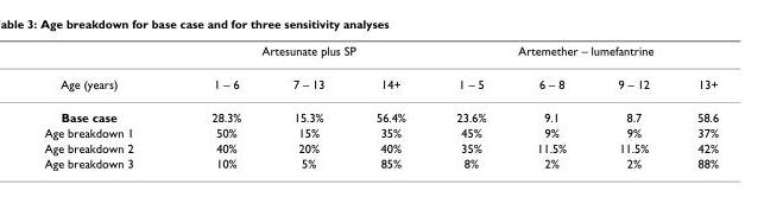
<table><thead><tr><td rowspan="2">Age (years)</td><td colspan="3">Artesunate plus SP</td><td colspan="4">Artemether – lumefantrine</td></tr><tr><td>1 – 6</td><td>7 – 13</td><td>14+</td><td>1 – 5</td><td>6 – 8</td><td>9 – 12</td><td>13+</td></tr></thead><tbody><tr><td>Base case</td><td>28.3%</td><td>15.3%</td><td>56.4%</td><td>23.6%</td><td>9.1</td><td>8.7</td><td>58.6</td></tr><tr><td>Age breakdown 1</td><td>50%</td><td>15%</td><td>35%</td><td>45%</td><td>9%</td><td>9%</td><td>37%</td></tr><tr><td>Age breakdown 2</td><td>40%</td><td>20%</td><td>40%</td><td>35%</td><td>11.5%</td><td>11.5%</td><td>42%</td></tr><tr><td>Age breakdown 3</td><td>10%</td><td>5%</td><td>85%</td><td>8%</td><td>2%</td><td>2%</td><td>88%</td></tr></tbody></table>